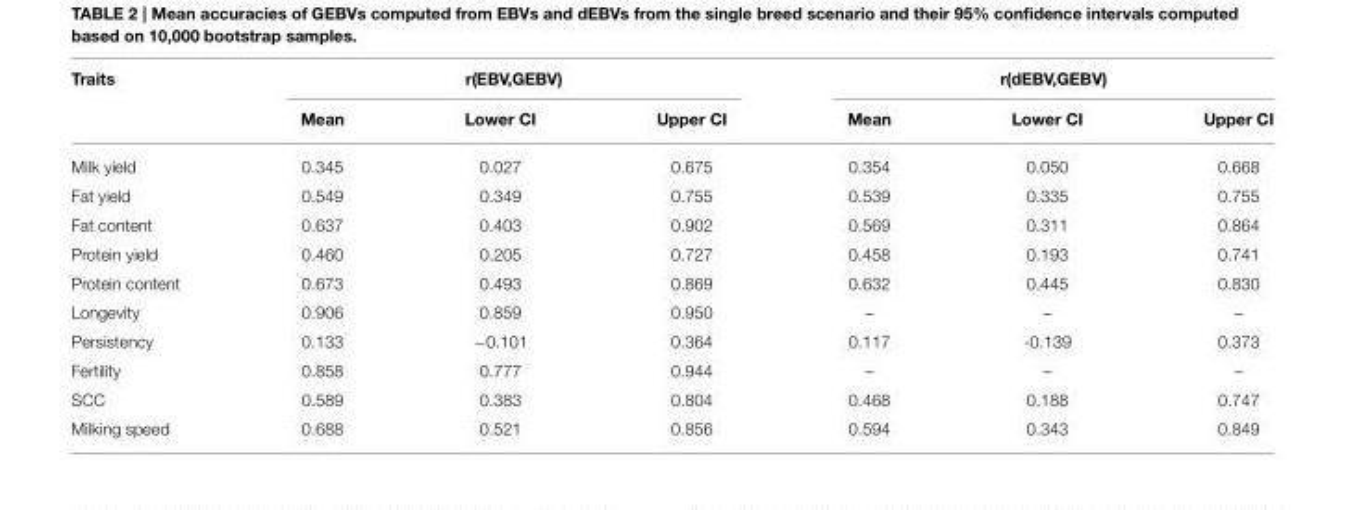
<table><thead><tr><td rowspan="2">Traits</td><td colspan="3">r(EBV,GEBV)</td><td colspan="3">r(dEBV,GEBV)</td></tr><tr><td>Mean</td><td>Lower CI</td><td>Upper CI</td><td>Mean</td><td>Lower CI</td><td>Upper CI</td></tr></thead><tbody><tr><td>Milk yield</td><td>0.345</td><td>0.027</td><td>0.675</td><td>0.354</td><td>0.050</td><td>0.668</td></tr><tr><td>Fat yield</td><td>0.549</td><td>0.349</td><td>0.755</td><td>0.539</td><td>0.335</td><td>0.755</td></tr><tr><td>Fat content</td><td>0.637</td><td>0.403</td><td>0.902</td><td>0.569</td><td>0.311</td><td>0.864</td></tr><tr><td>Protein yield</td><td>0.460</td><td>0.205</td><td>0.727</td><td>0.458</td><td>0.193</td><td>0.741</td></tr><tr><td>Protein content</td><td>0.673</td><td>0.493</td><td>0.869</td><td>0.632</td><td>0.445</td><td>0.830</td></tr><tr><td>Longevity</td><td>0.906</td><td>0.859</td><td>0.950</td><td>–</td><td>–</td><td>–</td></tr><tr><td>Persistency</td><td>0.133</td><td>−0.101</td><td>0.364</td><td>0.117</td><td>-0.139</td><td>0.373</td></tr><tr><td>Fertility</td><td>0.858</td><td>0.777</td><td>0.944</td><td>–</td><td>–</td><td>–</td></tr><tr><td>SCC</td><td>0.589</td><td>0.383</td><td>0.804</td><td>0.468</td><td>0.188</td><td>0.747</td></tr><tr><td>Milking speed</td><td>0.688</td><td>0.521</td><td>0.856</td><td>0.594</td><td>0.343</td><td>0.849</td></tr></tbody></table>